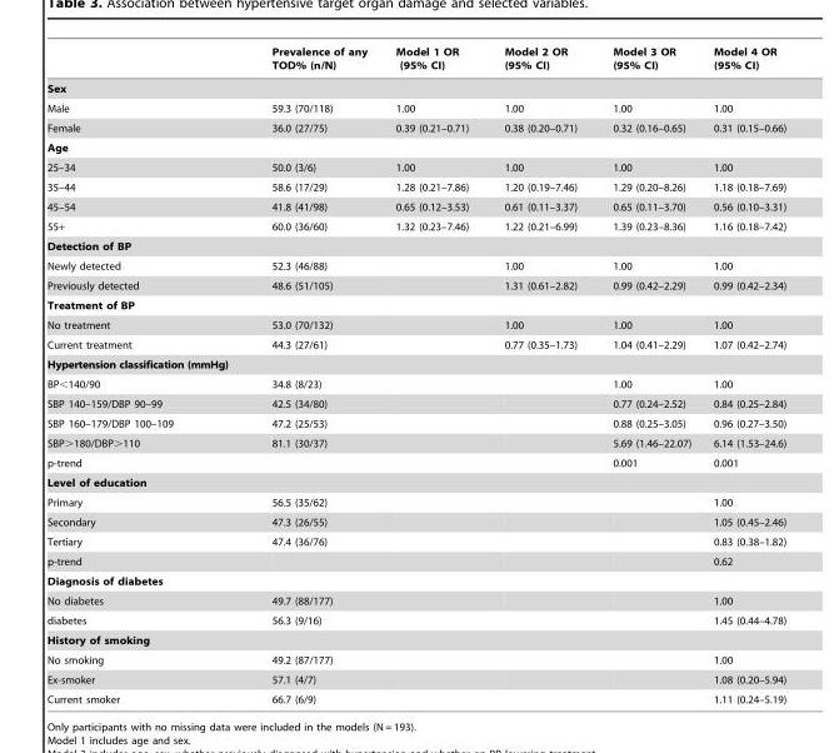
<table><thead><tr><td></td><td>Prevalence of any TOD% (n/N)</td><td>Model 1 OR (95% CI)</td><td>Model 2 OR (95% CI)</td><td>Model 3 OR (95% CI)</td><td>Model 4 OR (95% CI)</td></tr></thead><tbody><tr><td colspan="6">Sex</td></tr><tr><td>Male</td><td>59.3 (70/118)</td><td>1.00</td><td>1.00</td><td>1.00</td><td>1.00</td></tr><tr><td>Female</td><td>36.0 (27/75)</td><td>0.39 (0.21–0.71)</td><td>0.38 (0.20–0.71)</td><td>0.32 (0.16–0.65)</td><td>0.31 (0.15–0.66)</td></tr><tr><td colspan="6">Age</td></tr><tr><td>25–34</td><td>50.0 (3/6)</td><td>1.00</td><td>1.00</td><td>1.00</td><td>1.00</td></tr><tr><td>35–44</td><td>58.6 (17/29)</td><td>1.28 (0.21–7.86)</td><td>1.20 (0.19–7.46)</td><td>1.29 (0.20–8.26)</td><td>1.18 (0.18–7.69)</td></tr><tr><td>45–54</td><td>41.8 (41/98)</td><td>0.65 (0.12–3.53)</td><td>0.61 (0.11–3.37)</td><td>0.65 (0.11–3.70)</td><td>0.56 (0.10–3.31)</td></tr><tr><td>55+</td><td>60.0 (36/60)</td><td>1.32 (0.23–7.46)</td><td>1.22 (0.21–6.99)</td><td>1.39 (0.23–8.36)</td><td>1.16 (0.18–7.42)</td></tr><tr><td colspan="6">Detection of BP</td></tr><tr><td>Newly detected</td><td>52.3 (46/88)</td><td></td><td>1.00</td><td>1.00</td><td>1.00</td></tr><tr><td>Previously detected</td><td>48.6 (51/105)</td><td></td><td>1.31 (0.61–2.82)</td><td>0.99 (0.42–2.29)</td><td>0.99 (0.42–2.34)</td></tr><tr><td colspan="6">Treatment of BP</td></tr><tr><td>No treatment</td><td>53.0 (70/132)</td><td></td><td>1.00</td><td>1.00</td><td>1.00</td></tr><tr><td>Current treatment</td><td>44.3 (27/61)</td><td></td><td>0.77 (0.35–1.73)</td><td>1.04 (0.41–2.29)</td><td>1.07 (0.42–2.74)</td></tr><tr><td colspan="6">Hypertension classification (mmHg)</td></tr><tr><td>BP&lt;140/90</td><td>34.8 (8/23)</td><td></td><td></td><td>1.00</td><td>1.00</td></tr><tr><td>SBP 140–159/DBP 90–99</td><td>42.5 (34/80)</td><td></td><td></td><td>0.77 (0.24–2.52)</td><td>0.84 (0.25–2.84)</td></tr><tr><td>SBP 160–179/DBP 100–109</td><td>47.2 (25/53)</td><td></td><td></td><td>0.88 (0.25–3.05)</td><td>0.96 (0.27–3.50)</td></tr><tr><td>SBP&gt;180/DBP&gt;110</td><td>81.1 (30/37)</td><td></td><td></td><td>5.69 (1.46–22.07)</td><td>6.14 (1.53–24.6)</td></tr><tr><td>p-trend</td><td></td><td></td><td></td><td>0.001</td><td>0.001</td></tr><tr><td colspan="6">Level of education</td></tr><tr><td>Primary</td><td>56.5 (35/62)</td><td></td><td></td><td></td><td>1.00</td></tr><tr><td>Secondary</td><td>47.3 (26/55)</td><td></td><td></td><td></td><td>1.05 (0.45–2.46)</td></tr><tr><td>Tertiary</td><td>47.4 (36/76)</td><td></td><td></td><td></td><td>0.83 (0.38–1.82)</td></tr><tr><td>p-trend</td><td></td><td></td><td></td><td></td><td>0.62</td></tr><tr><td colspan="6">Diagnosis of diabetes</td></tr><tr><td>No diabetes</td><td>49.7 (88/177)</td><td></td><td></td><td></td><td>1.00</td></tr><tr><td>diabetes</td><td>56.3 (9/16)</td><td></td><td></td><td></td><td>1.45 (0.44–4.78)</td></tr><tr><td colspan="6">History of smoking</td></tr><tr><td>No smoking</td><td>49.2 (87/177)</td><td></td><td></td><td></td><td>1.00</td></tr><tr><td>Ex-smoker</td><td>57.1 (4/7)</td><td></td><td></td><td></td><td>1.08 (0.20–5.94)</td></tr><tr><td>Current smoker</td><td>66.7 (6/9)</td><td></td><td></td><td></td><td>1.11 (0.24–5.19)</td></tr></tbody></table>